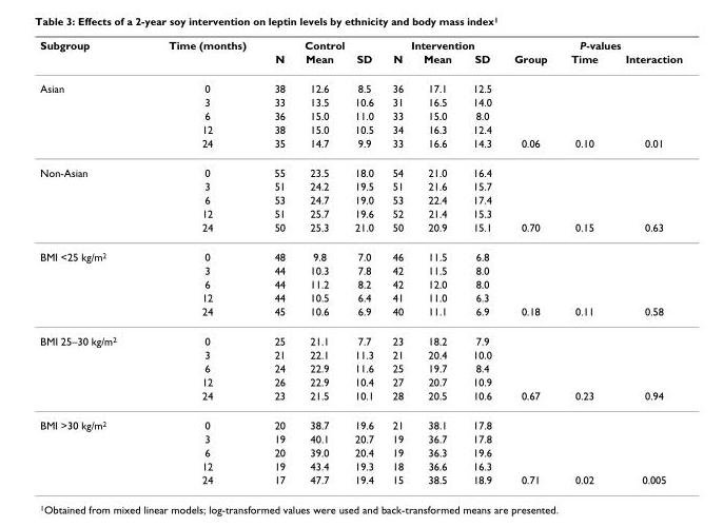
<table><thead><tr><td rowspan="2">Subgroup</td><td rowspan="2">Time (months)</td><td colspan="3">Control</td><td colspan="3">Intervention</td><td colspan="3">P-values</td></tr><tr><td>N</td><td>Mean</td><td>SD</td><td>N</td><td>Mean</td><td>SD</td><td>Group</td><td>Time</td><td>Interaction</td></tr></thead><tbody><tr><td rowspan="5">Asian</td><td>0</td><td>38</td><td>12.6</td><td>8.5</td><td>36</td><td>17.1</td><td>12.5</td><td></td><td></td><td></td></tr><tr><td>3</td><td>33</td><td>13.5</td><td>10.6</td><td>31</td><td>16.5</td><td>14.0</td><td></td><td></td><td></td></tr><tr><td>6</td><td>36</td><td>15.0</td><td>11.0</td><td>33</td><td>15.0</td><td>8.0</td><td></td><td></td><td></td></tr><tr><td>12</td><td>38</td><td>15.0</td><td>10.5</td><td>34</td><td>16.3</td><td>12.4</td><td></td><td></td><td></td></tr><tr><td>24</td><td>35</td><td>14.7</td><td>9.9</td><td>33</td><td>16.6</td><td>14.3</td><td>0.06</td><td>0.10</td><td>0.01</td></tr><tr><td rowspan="5">Non-Asian</td><td>0</td><td>55</td><td>23.5</td><td>18.0</td><td>54</td><td>21.0</td><td>16.4</td><td></td><td></td><td></td></tr><tr><td>3</td><td>51</td><td>24.2</td><td>19.5</td><td>51</td><td>21.6</td><td>15.7</td><td></td><td></td><td></td></tr><tr><td>6</td><td>53</td><td>24.7</td><td>19.0</td><td>53</td><td>22.4</td><td>17.4</td><td></td><td></td><td></td></tr><tr><td>12</td><td>51</td><td>25.7</td><td>19.6</td><td>52</td><td>21.4</td><td>15.3</td><td></td><td></td><td></td></tr><tr><td>24</td><td>50</td><td>25.3</td><td>21.0</td><td>50</td><td>20.9</td><td>15.1</td><td>0.70</td><td>0.15</td><td>0.63</td></tr><tr><td rowspan="5">BMI &lt;25 kg/m<sup>2</sup></td><td>0</td><td>48</td><td>9.8</td><td>7.0</td><td>46</td><td>11.5</td><td>6.8</td><td></td><td></td><td></td></tr><tr><td>3</td><td>44</td><td>10.3</td><td>7.8</td><td>42</td><td>11.5</td><td>8.0</td><td></td><td></td><td></td></tr><tr><td>6</td><td>44</td><td>11.2</td><td>8.2</td><td>42</td><td>12.0</td><td>8.0</td><td></td><td></td><td></td></tr><tr><td>12</td><td>44</td><td>10.5</td><td>6.4</td><td>41</td><td>11.0</td><td>6.3</td><td></td><td></td><td></td></tr><tr><td>24</td><td>45</td><td>10.6</td><td>6.9</td><td>40</td><td>11.1</td><td>6.9</td><td>0.18</td><td>0.11</td><td>0.58</td></tr><tr><td rowspan="5">BMI 25–30 kg/m<sup>2</sup></td><td>0</td><td>25</td><td>21.1</td><td>7.7</td><td>23</td><td>18.2</td><td>7.9</td><td></td><td></td><td></td></tr><tr><td>3</td><td>21</td><td>22.1</td><td>11.3</td><td>21</td><td>20.4</td><td>10.0</td><td></td><td></td><td></td></tr><tr><td>6</td><td>24</td><td>22.9</td><td>11.6</td><td>25</td><td>19.7</td><td>8.4</td><td></td><td></td><td></td></tr><tr><td>12</td><td>26</td><td>22.9</td><td>10.4</td><td>27</td><td>20.7</td><td>10.9</td><td></td><td></td><td></td></tr><tr><td>24</td><td>23</td><td>21.5</td><td>10.1</td><td>28</td><td>20.5</td><td>10.6</td><td>0.67</td><td>0.23</td><td>0.94</td></tr><tr><td rowspan="5">BMI &gt;30 kg/m<sup>2</sup></td><td>0</td><td>20</td><td>38.7</td><td>19.6</td><td>21</td><td>38.1</td><td>17.8</td><td></td><td></td><td></td></tr><tr><td>3</td><td>19</td><td>40.1</td><td>20.7</td><td>19</td><td>36.7</td><td>17.8</td><td></td><td></td><td></td></tr><tr><td>6</td><td>20</td><td>39.0</td><td>20.4</td><td>19</td><td>36.3</td><td>19.6</td><td></td><td></td><td></td></tr><tr><td>12</td><td>19</td><td>43.4</td><td>19.3</td><td>18</td><td>36.6</td><td>16.3</td><td></td><td></td><td></td></tr><tr><td>24</td><td>17</td><td>47.7</td><td>19.4</td><td>15</td><td>38.5</td><td>18.9</td><td>0.71</td><td>0.02</td><td>0.005</td></tr></tbody></table>